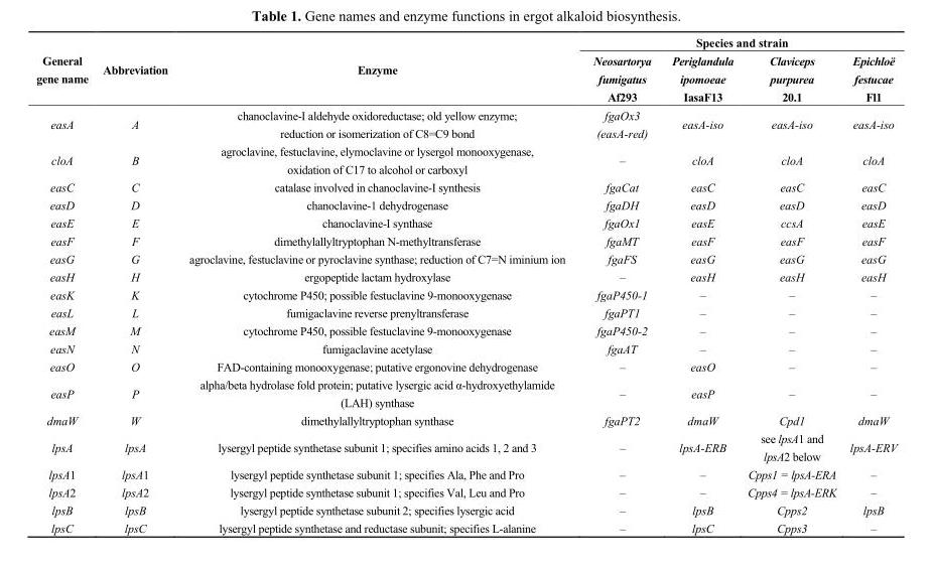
<table><thead><tr><td rowspan="2">General gene name</td><td rowspan="2">Abbreviation</td><td rowspan="2">Enzyme</td><td colspan="4">Species and strain</td></tr><tr><td>Neosartorya fumigatus Af293</td><td>Periglandula ipomoeae IasaF13</td><td>Claviceps purpurea 20.1</td><td>Epichloë festucae Fl1</td></tr></thead><tbody><tr><td>easA</td><td>A</td><td>chanoclavine-I aldehyde oxidoreductase; old yellow enzyme; reduction or isomerization of C8=C9 bond</td><td>fgaOx3 (easA-red)</td><td>easA-iso</td><td>easA-iso</td><td>easA-iso</td></tr><tr><td>cloA</td><td>B</td><td>agroclavine, festuclavine, elymoclavine or lysergol monooxygenase, oxidation of C17 to alcohol or carboxyl</td><td>–</td><td>cloA</td><td>cloA</td><td>cloA</td></tr><tr><td>easC</td><td>C</td><td>catalase involved in chanoclavine-I synthesis</td><td>fgaCat</td><td>easC</td><td>easC</td><td>easC</td></tr><tr><td>easD</td><td>D</td><td>chanoclavine-1 dehydrogenase</td><td>fgaDH</td><td>easD</td><td>easD</td><td>easD</td></tr><tr><td>easE</td><td>E</td><td>chanoclavine-I synthase</td><td>fgaOx1</td><td>easE</td><td>ccsA</td><td>easE</td></tr><tr><td>easF</td><td>F</td><td>dimethylallyltryptophan N-methyltransferase</td><td>fgaMT</td><td>easF</td><td>easF</td><td>easF</td></tr><tr><td>easG</td><td>G</td><td>agroclavine, festuclavine or pyroclavine synthase; reduction of C7=N iminium ion</td><td>fgaFS</td><td>easG</td><td>easG</td><td>easG</td></tr><tr><td>easH</td><td>H</td><td>ergopeptide lactam hydroxylase</td><td>–</td><td>easH</td><td>easH</td><td>easH</td></tr><tr><td>easK</td><td>K</td><td>cytochrome P450; possible festuclavine 9-monooxygenase</td><td>fgaP450-1</td><td>–</td><td>–</td><td>–</td></tr><tr><td>easL</td><td>L</td><td>fumigaclavine reverse prenyltransferase</td><td>fgaPT1</td><td>–</td><td>–</td><td>–</td></tr><tr><td>easM</td><td>M</td><td>cytochrome P450, possible festuclavine 9-monooxygenase</td><td>fgaP450-2</td><td>–</td><td>–</td><td>–</td></tr><tr><td>easN</td><td>N</td><td>fumigaclavine acetylase</td><td>fgaAT</td><td>–</td><td>–</td><td>–</td></tr><tr><td>easO</td><td>O</td><td>FAD-containing monooxygenase; putative ergonovine dehydrogenase</td><td>–</td><td>easO</td><td>–</td><td>–</td></tr><tr><td>easP</td><td>P</td><td>alpha/beta hydrolase fold protein; putative lysergic acid α-hydroxyethylamide (LAH) synthase</td><td>–</td><td>easP</td><td>–</td><td>–</td></tr><tr><td>dmaW</td><td>W</td><td>dimethylallyltryptophan synthase</td><td>fgaPT2</td><td>dmaW</td><td>Cpd1</td><td>dmaW</td></tr><tr><td>lpsA</td><td>lpsA</td><td>lysergyl peptide synthetase subunit 1; specifies amino acids 1, 2 and 3</td><td>–</td><td>lpsA-ERB</td><td>see lpsA1 and lpsA2 below</td><td>lpsA-ERV</td></tr><tr><td>lpsA1</td><td>lpsA1</td><td>lysergyl peptide synthetase subunit 1; specifies Ala, Phe and Pro</td><td>–</td><td>–</td><td>Cpps1 = lpsA-ERA</td><td>–</td></tr><tr><td>lpsA2</td><td>lpsA2</td><td>lysergyl peptide synthetase subunit 1; specifies Val, Leu and Pro</td><td>–</td><td>–</td><td>Cpps4 = lpsA-ERK</td><td>–</td></tr><tr><td>lpsB</td><td>lpsB</td><td>lysergyl peptide synthetase subunit 2; specifies lysergic acid</td><td>–</td><td>lpsB</td><td>Cpps2</td><td>lpsB</td></tr><tr><td>lpsC</td><td>lpsC</td><td>lysergyl peptide synthetase and reductase subunit; specifies L-alanine</td><td>–</td><td>lpsC</td><td>Cpps3</td><td>–</td></tr></tbody></table>